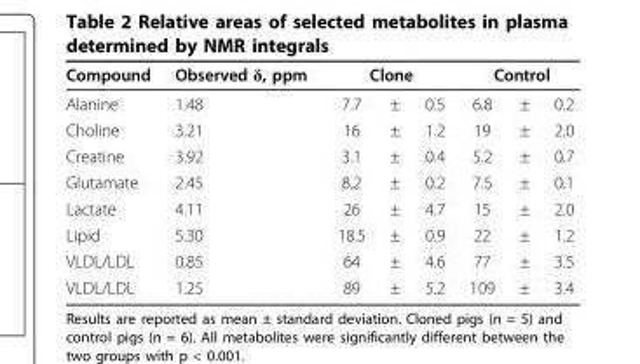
<table><thead><tr><td rowspan="2">Compound Alanine</td><td rowspan="2">Observed δ, ppm 1.48</td><td colspan="3">Clone</td><td colspan="3">Control</td></tr><tr><td>7.7</td><td>±</td><td>0.5</td><td>6.8</td><td>±</td><td>0.2</td></tr></thead><tbody><tr><td>Choline</td><td>3.21</td><td>16</td><td>±</td><td>1.2</td><td>19</td><td>±</td><td>2.0</td></tr><tr><td>Creatine</td><td>3.92</td><td>3.1</td><td>±</td><td>0.4</td><td>5.2</td><td>±</td><td>0.7</td></tr><tr><td>Glutamate</td><td>2.45</td><td>8.2</td><td>±</td><td>0.2</td><td>7.5</td><td>±</td><td>0.1</td></tr><tr><td>Lactate</td><td>4.11</td><td>26</td><td>±</td><td>4.7</td><td>15</td><td>±</td><td>2.0</td></tr><tr><td>Lipid</td><td>5.30</td><td>18.5</td><td>±</td><td>0.9</td><td>22</td><td>±</td><td>1.2</td></tr><tr><td>VLDL/LDL</td><td>0.85</td><td>64</td><td>±</td><td>4.6</td><td>77</td><td>±</td><td>3.5</td></tr><tr><td>VLDL/LDL</td><td>1.25</td><td>89</td><td>±</td><td>5.2</td><td>109</td><td>±</td><td>3.4</td></tr></tbody></table>